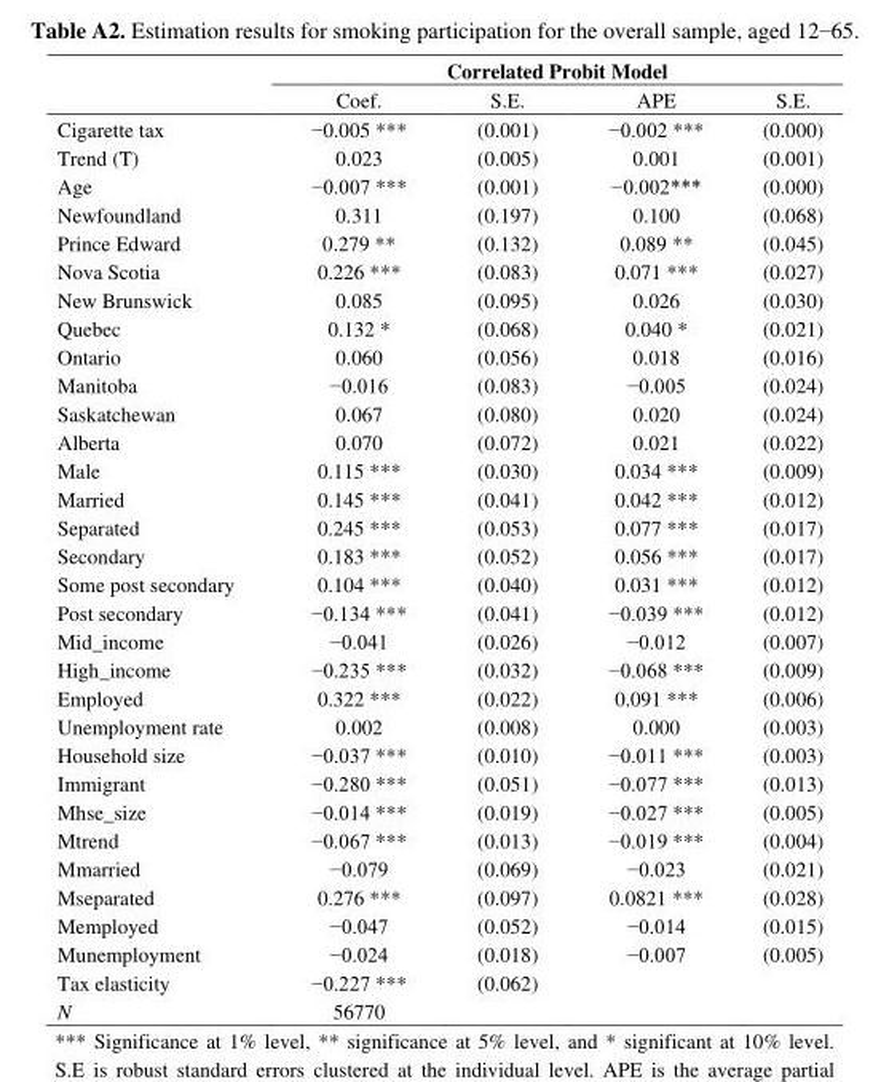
<table><thead><tr><td rowspan="2"></td><td colspan="4">Correlated Probit Model</td></tr><tr><td>Coef.</td><td>S.E.</td><td>APE</td><td>S.E.</td></tr></thead><tbody><tr><td>Cigarette tax</td><td>−0.005 ***</td><td>(0.001)</td><td>−0.002 ***</td><td>(0.000)</td></tr><tr><td>Trend (T)</td><td>0.023</td><td>(0.005)</td><td>0.001</td><td>(0.001)</td></tr><tr><td>Age</td><td>−0.007 ***</td><td>(0.001)</td><td>−0.002***</td><td>(0.000)</td></tr><tr><td>Newfoundland</td><td>0.311</td><td>(0.197)</td><td>0.100</td><td>(0.068)</td></tr><tr><td>Prince Edward</td><td>0.279 **</td><td>(0.132)</td><td>0.089 **</td><td>(0.045)</td></tr><tr><td>Nova Scotia</td><td>0.226 ***</td><td>(0.083)</td><td>0.071 ***</td><td>(0.027)</td></tr><tr><td>New Brunswick</td><td>0.085</td><td>(0.095)</td><td>0.026</td><td>(0.030)</td></tr><tr><td>Quebec</td><td>0.132 *</td><td>(0.068)</td><td>0.040 *</td><td>(0.021)</td></tr><tr><td>Ontario</td><td>0.060</td><td>(0.056)</td><td>0.018</td><td>(0.016)</td></tr><tr><td>Manitoba</td><td>−0.016</td><td>(0.083)</td><td>−0.005</td><td>(0.024)</td></tr><tr><td>Saskatchewan</td><td>0.067</td><td>(0.080)</td><td>0.020</td><td>(0.024)</td></tr><tr><td>Alberta</td><td>0.070</td><td>(0.072)</td><td>0.021</td><td>(0.022)</td></tr><tr><td>Male</td><td>0.115 ***</td><td>(0.030)</td><td>0.034 ***</td><td>(0.009)</td></tr><tr><td>Married</td><td>0.145 ***</td><td>(0.041)</td><td>0.042 ***</td><td>(0.012)</td></tr><tr><td>Separated</td><td>0.245 ***</td><td>(0.053)</td><td>0.077 ***</td><td>(0.017)</td></tr><tr><td>Secondary</td><td>0.183 ***</td><td>(0.052)</td><td>0.056 ***</td><td>(0.017)</td></tr><tr><td>Some post secondary</td><td>0.104 ***</td><td>(0.040)</td><td>0.031 ***</td><td>(0.012)</td></tr><tr><td>Post secondary</td><td>−0.134 ***</td><td>(0.041)</td><td>−0.039 ***</td><td>(0.012)</td></tr><tr><td>Mid_income</td><td>−0.041</td><td>(0.026)</td><td>−0.012</td><td>(0.007)</td></tr><tr><td>High_income</td><td>−0.235 ***</td><td>(0.032)</td><td>−0.068 ***</td><td>(0.009)</td></tr><tr><td>Employed</td><td>0.322 ***</td><td>(0.022)</td><td>0.091 ***</td><td>(0.006)</td></tr><tr><td>Unemployment rate</td><td>0.002</td><td>(0.008)</td><td>0.000</td><td>(0.003)</td></tr><tr><td>Household size</td><td>−0.037 ***</td><td>(0.010)</td><td>−0.011 ***</td><td>(0.003)</td></tr><tr><td>Immigrant</td><td>−0.280 ***</td><td>(0.051)</td><td>−0.077 ***</td><td>(0.013)</td></tr><tr><td>Mhse_size</td><td>−0.014 ***</td><td>(0.019)</td><td>−0.027 ***</td><td>(0.005)</td></tr><tr><td>Mtrend</td><td>−0.067 ***</td><td>(0.013)</td><td>−0.019 ***</td><td>(0.004)</td></tr><tr><td>Mmarried</td><td>−0.079</td><td>(0.069)</td><td>−0.023</td><td>(0.021)</td></tr><tr><td>Mseparated</td><td>0.276 ***</td><td>(0.097)</td><td>0.0821 ***</td><td>(0.028)</td></tr><tr><td>Memployed</td><td>−0.047</td><td>(0.052)</td><td>−0.014</td><td>(0.015)</td></tr><tr><td>Munemployment</td><td>−0.024</td><td>(0.018)</td><td>−0.007</td><td>(0.005)</td></tr><tr><td>Tax elasticity</td><td>−0.227 ***</td><td>(0.062)</td><td></td><td></td></tr><tr><td>N</td><td>56770</td><td></td><td></td><td></td></tr></tbody></table>